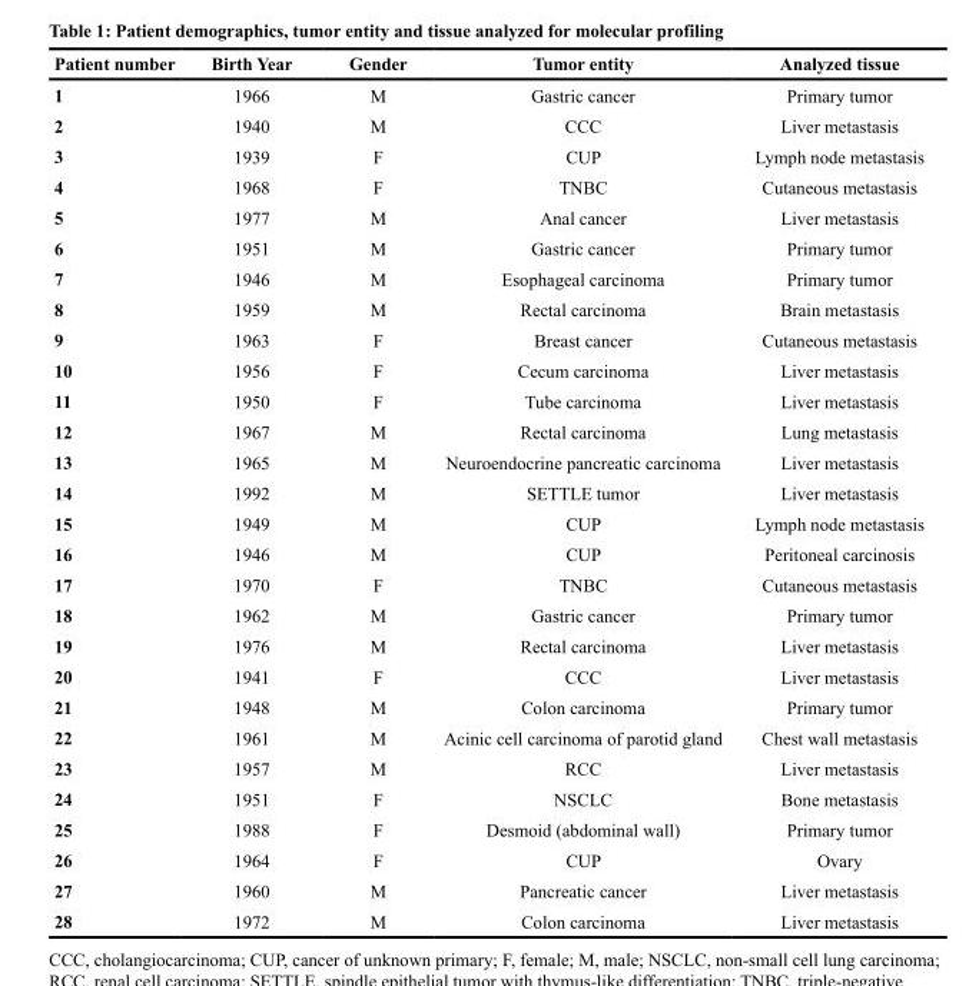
<table><thead><tr><td>Patient number</td><td>Birth Year</td><td>Gender</td><td>Tumor entity</td><td>Analyzed tissue</td></tr></thead><tbody><tr><td>1</td><td>1966</td><td>M</td><td>Gastric cancer</td><td>Primary tumor</td></tr><tr><td>2</td><td>1940</td><td>M</td><td>CCC</td><td>Liver metastasis</td></tr><tr><td>3</td><td>1939</td><td>F</td><td>CUP</td><td>Lymph node metastasis</td></tr><tr><td>4</td><td>1968</td><td>F</td><td>TNBC</td><td>Cutaneous metastasis</td></tr><tr><td>5</td><td>1977</td><td>M</td><td>Anal cancer</td><td>Liver metastasis</td></tr><tr><td>6</td><td>1951</td><td>M</td><td>Gastric cancer</td><td>Primary tumor</td></tr><tr><td>7</td><td>1946</td><td>M</td><td>Esophageal carcinoma</td><td>Primary tumor</td></tr><tr><td>8</td><td>1959</td><td>M</td><td>Rectal carcinoma</td><td>Brain metastasis</td></tr><tr><td>9</td><td>1963</td><td>F</td><td>Breast cancer</td><td>Cutaneous metastasis</td></tr><tr><td>10</td><td>1956</td><td>F</td><td>Cecum carcinoma</td><td>Liver metastasis</td></tr><tr><td>11</td><td>1950</td><td>F</td><td>Tube carcinoma</td><td>Liver metastasis</td></tr><tr><td>12</td><td>1967</td><td>M</td><td>Rectal carcinoma</td><td>Lung metastasis</td></tr><tr><td>13</td><td>1965</td><td>M</td><td>Neuroendocrine pancreatic carcinoma</td><td>Liver metastasis</td></tr><tr><td>14</td><td>1992</td><td>M</td><td>SETTLE tumor</td><td>Liver metastasis</td></tr><tr><td>15</td><td>1949</td><td>M</td><td>CUP</td><td>Lymph node metastasis</td></tr><tr><td>16</td><td>1946</td><td>M</td><td>CUP</td><td>Peritoneal carcinosis</td></tr><tr><td>17</td><td>1970</td><td>F</td><td>TNBC</td><td>Cutaneous metastasis</td></tr><tr><td>18</td><td>1962</td><td>M</td><td>Gastric cancer</td><td>Primary tumor</td></tr><tr><td>19</td><td>1976</td><td>M</td><td>Rectal carcinoma</td><td>Liver metastasis</td></tr><tr><td>20</td><td>1941</td><td>F</td><td>CCC</td><td>Liver metastasis</td></tr><tr><td>21</td><td>1948</td><td>M</td><td>Colon carcinoma</td><td>Primary tumor</td></tr><tr><td>22</td><td>1961</td><td>M</td><td>Acinic cell carcinoma of parotid gland</td><td>Chest wall metastasis</td></tr><tr><td>23</td><td>1957</td><td>M</td><td>RCC</td><td>Liver metastasis</td></tr><tr><td>24</td><td>1951</td><td>F</td><td>NSCLC</td><td>Bone metastasis</td></tr><tr><td>25</td><td>1988</td><td>F</td><td>Desmoid (abdominal wall)</td><td>Primary tumor</td></tr><tr><td>26</td><td>1964</td><td>F</td><td>CUP</td><td>Ovary</td></tr><tr><td>27</td><td>1960</td><td>M</td><td>Pancreatic cancer</td><td>Liver metastasis</td></tr><tr><td>28</td><td>1972</td><td>M</td><td>Colon carcinoma</td><td>Liver metastasis</td></tr></tbody></table>